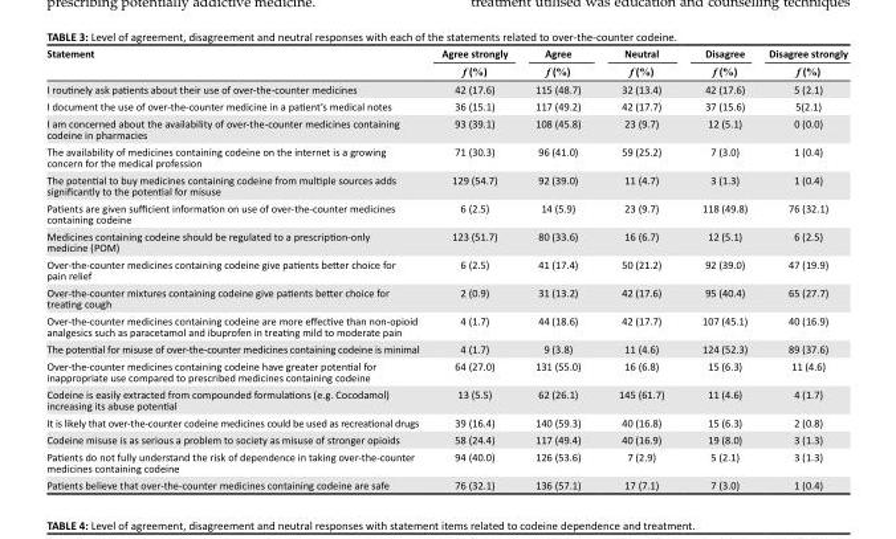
<table><thead><tr><td rowspan="2">Statement</td><td rowspan="2">Agree strongly f (%)</td><td rowspan="2">Agree f (%)</td><td rowspan="2">Neutral f (%)</td><td rowspan="2">Disagree f (%)</td><td rowspan="2">Disagree strongly f (%)</td></tr><tr></tr></thead><tbody><tr><td>I routinely ask patients about their use of over-the-counter medicines</td><td>42 (17.6)</td><td>115 (48.7)</td><td>32 (13.4)</td><td>42 (17.6)</td><td>5 (2.1)</td></tr><tr><td>I document the use of over-the-counter medicine in a patient’s medical notes</td><td>36 (15.1)</td><td>117 (49.2)</td><td>42 (17.7)</td><td>37 (15.6)</td><td>5(2.1)</td></tr><tr><td>I am concerned about the availability of over-the-counter medicines containing codeine in pharmacies</td><td>93 (39.1)</td><td>108 (45.8)</td><td>23 (9.7)</td><td>12 (5.1)</td><td>0 (0.0)</td></tr><tr><td>The availability of medicines containing codeine on the internet is a growing concern for the medical profession</td><td>71 (30.3)</td><td>96 (41.0)</td><td>59 (25.2)</td><td>7 (3.0)</td><td>1 (0.4)</td></tr><tr><td>The potential to buy medicines containing codeine from multiple sources adds significantly to the potential for misuse</td><td>129 (54.7)</td><td>92 (39.0)</td><td>11 (4.7)</td><td>3 (1.3)</td><td>1 (0.4)</td></tr><tr><td>Patients are given sufficient information on use of over-the-counter medicines containing codeine</td><td>6 (2.5)</td><td>14 (5.9)</td><td>23 (9.7)</td><td>118 (49.8)</td><td>76 (32.1)</td></tr><tr><td>Medicines containing codeine should be regulated to a prescription-only medicine (POM)</td><td>123 (51.7)</td><td>80 (33.6)</td><td>16 (6.7)</td><td>12 (5.1)</td><td>6 (2.5)</td></tr><tr><td>Over-the-counter medicines containing codeine give patients better choice for pain relief</td><td>6 (2.5)</td><td>41 (17.4)</td><td>50 (21.2)</td><td>92 (39.0)</td><td>47 (19.9)</td></tr><tr><td>Over-the-counter mixtures containing codeine give patients better choice for treating cough</td><td>2 (0.9)</td><td>31 (13.2)</td><td>42 (17.6)</td><td>95 (40.4)</td><td>65 (27.7)</td></tr><tr><td>Over-the-counter medicines containing codeine are more effective than non-opioid analgesics such as paracetamol and ibuprofen in treating mild to moderate pain</td><td>4 (1.7)</td><td>44 (18.6)</td><td>42 (17.7)</td><td>107 (45.1)</td><td>40 (16.9)</td></tr><tr><td>The potential for misuse of over-the-counter medicines containing codeine is minimal</td><td>4 (1.7)</td><td>9 (3.8)</td><td>11 (4.6)</td><td>124 (52.3)</td><td>89 (37.6)</td></tr><tr><td>Over-the-counter medicines containing codeine have greater potential for inappropriate use compared to prescribed medicines containing codeine</td><td>64 (27.0)</td><td>131 (55.0)</td><td>16 (6.8)</td><td>15 (6.3)</td><td>11 (4.6)</td></tr><tr><td>Codeine is easily extracted from compounded formulations (e.g. Cocodamol) increasing its abuse potential</td><td>13 (5.5)</td><td>62 (26.1)</td><td>145 (61.7)</td><td>11 (4.6)</td><td>4 (1.7)</td></tr><tr><td>It is likely that over-the-counter codeine medicines could be used as recreational drugs</td><td>39 (16.4)</td><td>140 (59.3)</td><td>40 (16.8)</td><td>15 (6.3)</td><td>2 (0.8)</td></tr><tr><td>Codeine misuse is as serious a problem to society as misuse of stronger opioids</td><td>58 (24.4)</td><td>117 (49.4)</td><td>40 (16.9)</td><td>19 (8.0)</td><td>3 (1.3)</td></tr><tr><td>Patients do not fully understand the risk of dependence in taking over-the-counter medicines containing codeine</td><td>94 (40.0)</td><td>126 (53.6)</td><td>7 (2.9)</td><td>5 (2.1)</td><td>3 (1.3)</td></tr><tr><td>Patients believe that over-the-counter medicines containing codeine are safe</td><td>76 (32.1)</td><td>136 (57.1)</td><td>17 (7.1)</td><td>7 (3.0)</td><td>1 (0.4)</td></tr></tbody></table>